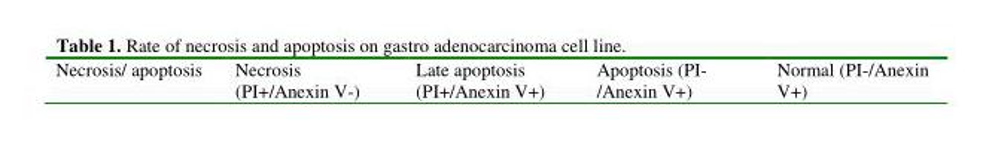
<table><tbody><tr><td>Necrosis/ apoptosis</td><td>Necrosis (PI+/Anexin V-)</td><td>Late apoptosis (PI+/Anexin V+)</td><td>Apoptosis (PI- /Anexin V+)</td><td>Normal (PI-/Anexin V+)</td></tr></tbody></table>